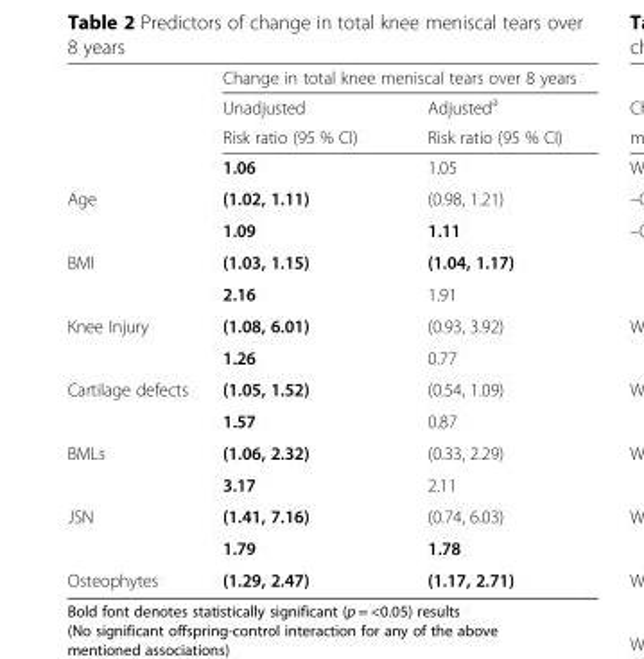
<table><thead><tr><td rowspan="3"></td><td colspan="2">Change in total knee meniscal tears over 8 years</td></tr><tr><td rowspan="2">Unadjusted Risk ratio (95 % CI)</td><td rowspan="2">Adjusted<sup>a</sup> Risk ratio (95 % CI)</td></tr><tr></tr></thead><tbody><tr><td></td><td>1.06</td><td>1.05</td></tr><tr><td rowspan="2">Age</td><td>(1.02, 1.11)</td><td>(0.98, 1.21)</td></tr><tr><td>1.09</td><td>1.11</td></tr><tr><td rowspan="2">BMI</td><td>(1.03, 1.15)</td><td>(1.04, 1.17)</td></tr><tr><td>2.16</td><td>1.91</td></tr><tr><td rowspan="2">Knee Injury</td><td>(1.08, 6.01)</td><td>(0.93, 3.92)</td></tr><tr><td>1.26</td><td>0.77</td></tr><tr><td rowspan="2">Cartilage defects</td><td>(1.05, 1.52)</td><td>(0.54, 1.09)</td></tr><tr><td>1.57</td><td>0.87</td></tr><tr><td rowspan="2">BMLs</td><td>(1.06, 2.32)</td><td>(0.33, 2.29)</td></tr><tr><td>3.17</td><td>2.11</td></tr><tr><td rowspan="2">JSN</td><td>(1.41, 7.16)</td><td>(0.74, 6.03)</td></tr><tr><td>1.79</td><td>1.78</td></tr><tr><td>Osteophytes</td><td>(1.29, 2.47)</td><td>(1.17, 2.71)</td></tr></tbody></table>